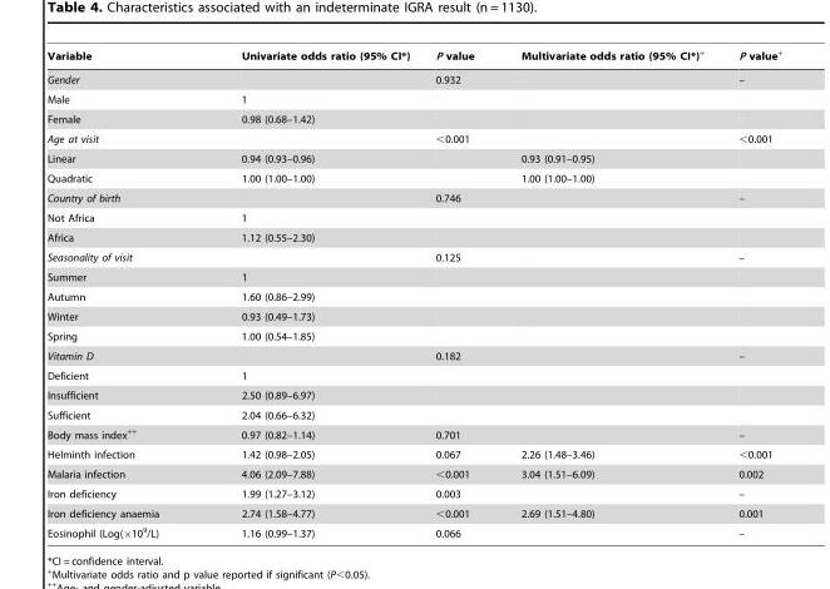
<table><thead><tr><td>Variable</td><td>Univariate odds ratio (95% CI*)</td><td>P value</td><td>Multivariate odds ratio (95% CI*)+</td><td>P value+</td></tr></thead><tbody><tr><td>Gender</td><td></td><td>0.932</td><td></td><td>–</td></tr><tr><td>Male</td><td>1</td><td></td><td></td><td></td></tr><tr><td>Female</td><td>0.98 (0.68–1.42)</td><td></td><td></td><td></td></tr><tr><td>Age at visit</td><td></td><td>&lt;0.001</td><td></td><td>&lt;0.001</td></tr><tr><td>Linear</td><td>0.94 (0.93–0.96)</td><td></td><td>0.93 (0.91–0.95)</td><td></td></tr><tr><td>Quadratic</td><td>1.00 (1.00–1.00)</td><td></td><td>1.00 (1.00–1.00)</td><td></td></tr><tr><td>Country of birth</td><td></td><td>0.746</td><td></td><td>–</td></tr><tr><td>Not Africa</td><td>1</td><td></td><td></td><td></td></tr><tr><td>Africa</td><td>1.12 (0.55–2.30)</td><td></td><td></td><td></td></tr><tr><td>Seasonality of visit</td><td></td><td>0.125</td><td></td><td>–</td></tr><tr><td>Summer</td><td>1</td><td></td><td></td><td></td></tr><tr><td>Autumn</td><td>1.60 (0.86–2.99)</td><td></td><td></td><td></td></tr><tr><td>Winter</td><td>0.93 (0.49–1.73)</td><td></td><td></td><td></td></tr><tr><td>Spring</td><td>1.00 (0.54–1.85)</td><td></td><td></td><td></td></tr><tr><td>Vitamin D</td><td></td><td>0.182</td><td></td><td>–</td></tr><tr><td>Deficient</td><td>1</td><td></td><td></td><td></td></tr><tr><td>Insufficient</td><td>2.50 (0.89–6.97)</td><td></td><td></td><td></td></tr><tr><td>Sufficient</td><td>2.04 (0.66–6.32)</td><td></td><td></td><td></td></tr><tr><td>Body mass index++</td><td>0.97 (0.82–1.14)</td><td>0.701</td><td></td><td>–</td></tr><tr><td>Helminth infection</td><td>1.42 (0.98–2.05)</td><td>0.067</td><td>2.26 (1.48–3.46)</td><td>&lt;0.001</td></tr><tr><td>Malaria infection</td><td>4.06 (2.09–7.88)</td><td>&lt;0.001</td><td>3.04 (1.51–6.09)</td><td>0.002</td></tr><tr><td>Iron deficiency</td><td>1.99 (1.27–3.12)</td><td>0.003</td><td></td><td>–</td></tr><tr><td>Iron deficiency anaemia</td><td>2.74 (1.58–4.77)</td><td>&lt;0.001</td><td>2.69 (1.51–4.80)</td><td>0.001</td></tr><tr><td>Eosinophil (Log(×10<sup>9</sup>/L)</td><td>1.16 (0.99–1.37)</td><td>0.066</td><td></td><td>–</td></tr></tbody></table>